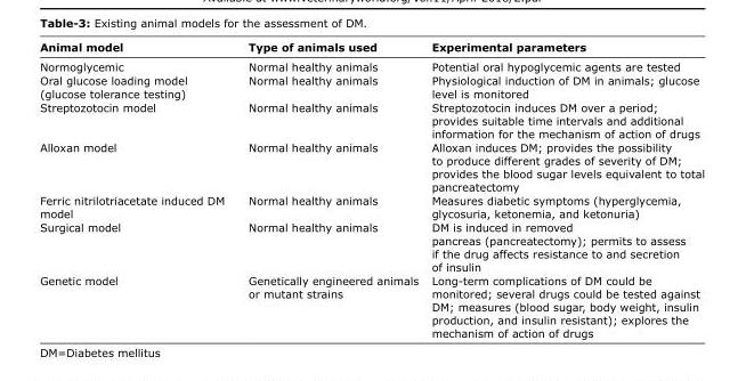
<table><thead><tr><td>Animal model</td><td>Type of animals used</td><td>Experimental parameters</td></tr></thead><tbody><tr><td>Normoglycemic</td><td>Normal healthy animals</td><td>Potential oral hypoglycemic agents are tested</td></tr><tr><td>Oral glucose loading model (glucose tolerance testing)</td><td>Normal healthy animals</td><td>Physiological induction of DM in animals; glucose level is monitored</td></tr><tr><td>Streptozotocin model</td><td>Normal healthy animals</td><td>Streptozotocin induces DM over a period; provides suitable time intervals and additional information for the mechanism of action of drugs</td></tr><tr><td>Alloxan model</td><td>Normal healthy animals</td><td>Alloxan induces DM; provides the possibility to produce different grades of severity of DM; provides the blood sugar levels equivalent to total pancreatectomy</td></tr><tr><td>Ferric nitrilotriacetate induced DM model</td><td>Normal healthy animals</td><td>Measures diabetic symptoms (hyperglycemia, glycosuria, ketonemia, and ketonuria)</td></tr><tr><td>Surgical model</td><td>Normal healthy animals</td><td>DM is induced in removed pancreas (pancreatectomy); permits to assess if the drug affects resistance to and secretion of insulin</td></tr><tr><td>Genetic model</td><td>Genetically engineered animals or mutant strains</td><td>Long-term complications of DM could be monitored; several drugs could be tested against DM; measures (blood sugar, body weight, insulin production, and insulin resistant); explores the mechanism of action of drugs</td></tr></tbody></table>